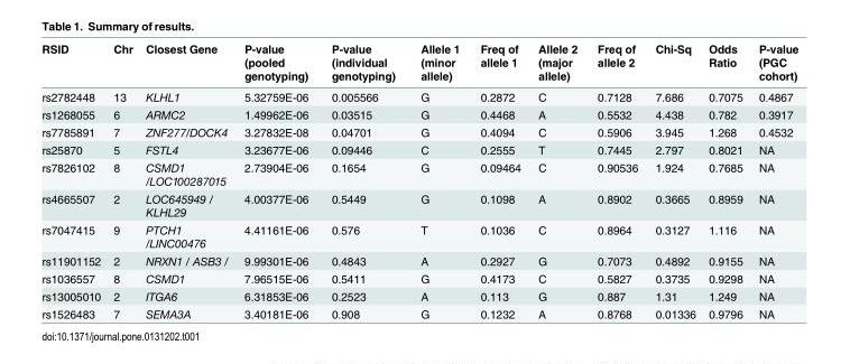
<table><thead><tr><td>RSID</td><td>Chr</td><td>Closest Gene</td><td>P-value (pooled genotyping)</td><td>P-value (individual genotyping)</td><td>Allele 1 (minor allele)</td><td>Freq of allele 1</td><td>Allele 2 (major allele)</td><td>Freq of allele 2</td><td>Chi-Sq</td><td>Odds Ratio</td><td>P-value (PGC cohort)</td></tr></thead><tbody><tr><td>rs2782448</td><td>13</td><td>KLHL1</td><td>5.32759E-06</td><td>0.005566</td><td>G</td><td>0.2872</td><td>C</td><td>0.7128</td><td>7.686</td><td>0.7075</td><td>0.4867</td></tr><tr><td>rs1268055</td><td>6</td><td>ARMC2</td><td>1.49962E-06</td><td>0.03515</td><td>G</td><td>0.4468</td><td>A</td><td>0.5532</td><td>4.438</td><td>0.782</td><td>0.3917</td></tr><tr><td>rs7785891</td><td>7</td><td>ZNF277/DOCK4</td><td>3.27832E-08</td><td>0.04701</td><td>G</td><td>0.4094</td><td>C</td><td>0.5906</td><td>3.945</td><td>1.268</td><td>0.4532</td></tr><tr><td>rs25870</td><td>5</td><td>FSTL4</td><td>3.23677E-06</td><td>0.09446</td><td>C</td><td>0.2555</td><td>T</td><td>0.7445</td><td>2.797</td><td>0.8021</td><td>NA</td></tr><tr><td>rs7826102</td><td>8</td><td>CSMD1 /LOC100287015</td><td>2.73904E-06</td><td>0.1654</td><td>G</td><td>0.09464</td><td>C</td><td>0.90536</td><td>1.924</td><td>0.7685</td><td>NA</td></tr><tr><td>rs4665507</td><td>2</td><td>LOC645949 / KLHL29</td><td>4.00377E-06</td><td>0.5449</td><td>G</td><td>0.1098</td><td>A</td><td>0.8902</td><td>0.3665</td><td>0.8959</td><td>NA</td></tr><tr><td>rs7047415</td><td>9</td><td>PTCH1 /LINC00476</td><td>4.41161E-06</td><td>0.576</td><td>T</td><td>0.1036</td><td>C</td><td>0.8964</td><td>0.3127</td><td>1.116</td><td>NA</td></tr><tr><td>rs11901152</td><td>2</td><td>NRXN1 / ASB3 /</td><td>9.99301E-06</td><td>0.4843</td><td>A</td><td>0.2927</td><td>G</td><td>0.7073</td><td>0.4892</td><td>0.9155</td><td>NA</td></tr><tr><td>rs1036557</td><td>8</td><td>CSMD1</td><td>7.96515E-06</td><td>0.5411</td><td>G</td><td>0.4173</td><td>C</td><td>0.5827</td><td>0.3735</td><td>0.9298</td><td>NA</td></tr><tr><td>rs13005010</td><td>2</td><td>ITGA6</td><td>6.31853E-06</td><td>0.2523</td><td>A</td><td>0.113</td><td>G</td><td>0.887</td><td>1.31</td><td>1.249</td><td>NA</td></tr><tr><td>rs1526483</td><td>7</td><td>SEMA3A</td><td>3.40181E-06</td><td>0.908</td><td>G</td><td>0.1232</td><td>A</td><td>0.8768</td><td>0.01336</td><td>0.9796</td><td>NA</td></tr></tbody></table>